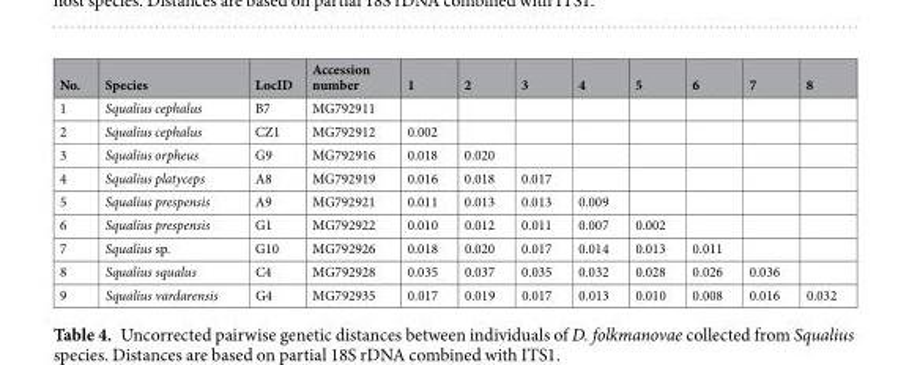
<table><thead><tr><td>No.</td><td>Species</td><td>LocID</td><td>Accession number</td><td>1</td><td>2</td><td>3</td><td>4</td><td>5</td><td>6</td><td>7</td><td>8</td></tr></thead><tbody><tr><td>1</td><td>Squalius cephalus</td><td>B7</td><td>MG792911</td><td></td><td></td><td></td><td></td><td></td><td></td><td></td><td></td></tr><tr><td>2</td><td>Squalius cephalus</td><td>CZ1</td><td>MG792912</td><td>0.002</td><td></td><td></td><td></td><td></td><td></td><td></td><td></td></tr><tr><td>3</td><td>Squalius orpheus</td><td>G9</td><td>MG792916</td><td>0.018</td><td>0.020</td><td></td><td></td><td></td><td></td><td></td><td></td></tr><tr><td>4</td><td>Squalius platyceps</td><td>A8</td><td>MG792919</td><td>0.016</td><td>0.018</td><td>0.017</td><td></td><td></td><td></td><td></td><td></td></tr><tr><td>5</td><td>Squalius prespensis</td><td>A9</td><td>MG792921</td><td>0.011</td><td>0.013</td><td>0.013</td><td>0.009</td><td></td><td></td><td></td><td></td></tr><tr><td>6</td><td>Squalius prespensis</td><td>G1</td><td>MG792922</td><td>0.010</td><td>0.012</td><td>0.011</td><td>0.007</td><td>0.002</td><td></td><td></td><td></td></tr><tr><td>7</td><td>Squalius sp.</td><td>G10</td><td>MG792926</td><td>0.018</td><td>0.020</td><td>0.017</td><td>0.014</td><td>0.013</td><td>0.011</td><td></td><td></td></tr><tr><td>8</td><td>Squalius squalus</td><td>C4</td><td>MG792928</td><td>0.035</td><td>0.037</td><td>0.035</td><td>0.032</td><td>0.028</td><td>0.026</td><td>0.036</td><td></td></tr><tr><td>9</td><td>Squalius vardarensis</td><td>G4</td><td>MG792935</td><td>0.017</td><td>0.019</td><td>0.017</td><td>0.013</td><td>0.010</td><td>0.008</td><td>0.016</td><td>0.032</td></tr></tbody></table>